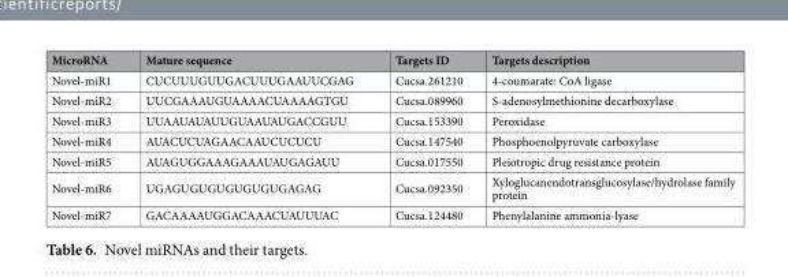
<table><thead><tr><td>MicroRNA</td><td>Mature sequence</td><td>Targets ID</td><td>Targets description</td></tr></thead><tbody><tr><td>Novel-miR1</td><td>CUCUUUGUUGACUUUGAAUUCGAG</td><td>Cucsa.261210</td><td>4-coumarate: CoA ligase</td></tr><tr><td>Novel-miR2</td><td>UUCGAAAUGUAAAACUAAAAGTGU</td><td>Cucsa.089960</td><td>S-adenosylmethionine decarboxylase</td></tr><tr><td>Novel-miR3</td><td>UUAAUAUAUUGUAAUAUGACCGUU</td><td>Cucsa.153390</td><td>Peroxidase</td></tr><tr><td>Novel-miR4</td><td>AUACUCUAGAACAAUCUCUCU</td><td>Cucsa.147540</td><td>Phosphoenolpyruvate carboxylase</td></tr><tr><td>Novel-miR5</td><td>AUAGUGGAAAGAAAUAUGAGAUU</td><td>Cucsa.017550</td><td>Pleiotropic drug resistance protein</td></tr><tr><td>Novel-miR6</td><td>UGAGUGUGUGUGUGUGAGAG</td><td>Cucsa.092350</td><td>Xyloglucanendotransglucosylase/hydrolase family protein</td></tr><tr><td>Novel-miR7</td><td>GACAAAAUGGACAAACUAUUUAC</td><td>Cucsa.124480</td><td>Phenylalanine ammonia-lyase</td></tr></tbody></table>